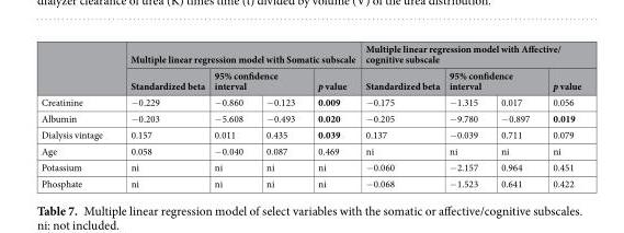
<table><thead><tr><td rowspan="3">Creatinine</td><td colspan="4">Multiple linear regression model with Somatic subscale</td><td colspan="4">Multiple linear regression model with Affective/ cognitive subscale</td></tr><tr><td rowspan="2">Standardized beta −0.229</td><td colspan="2">95% confidence interval</td><td rowspan="2">p value 0.009</td><td rowspan="2">Standardized beta −0.175</td><td colspan="2">95% confidence interval</td><td rowspan="2">p value 0.056</td></tr><tr><td>−0.860</td><td>−0.123</td><td>−1.315</td><td>0.017</td></tr></thead><tbody><tr><td>Albumin</td><td>−0.203</td><td>−5.608</td><td>−0.493</td><td>0.020</td><td>−0.205</td><td>−9.780</td><td>−0.897</td><td>0.019</td></tr><tr><td>Dialysis vintage</td><td>0.157</td><td>0.011</td><td>0.435</td><td>0.039</td><td>0.137</td><td>−0.039</td><td>0.711</td><td>0.079</td></tr><tr><td>Age</td><td>0.058</td><td>−0.040</td><td>0.087</td><td>0.469</td><td>ni</td><td>ni</td><td>ni</td><td>ni</td></tr><tr><td>Potassium</td><td>ni</td><td>ni</td><td>ni</td><td>ni</td><td>−0.060</td><td>−2.157</td><td>0.964</td><td>0.451</td></tr><tr><td>Phosphate</td><td>ni</td><td>ni</td><td>ni</td><td>ni</td><td>−0.068</td><td>−1.523</td><td>0.641</td><td>0.422</td></tr></tbody></table>